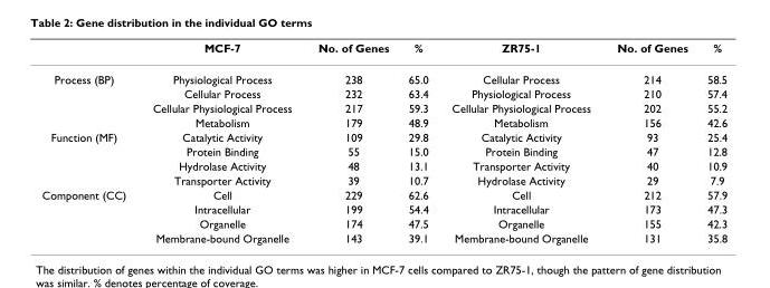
<table><thead><tr><td></td><td>MCF-7</td><td>No. of Genes</td><td>%</td><td>ZR75-1</td><td>No. of Genes</td><td>%</td></tr></thead><tbody><tr><td rowspan="4">Process (BP)</td><td>Physiological Process</td><td>238</td><td>65.0</td><td>Cellular Process</td><td>214</td><td>58.5</td></tr><tr><td>Cellular Process</td><td>232</td><td>63.4</td><td>Physiological Process</td><td>210</td><td>57.4</td></tr><tr><td>Cellular Physiological Process</td><td>217</td><td>59.3</td><td>Cellular Physiological Process</td><td>202</td><td>55.2</td></tr><tr><td>Metabolism</td><td>179</td><td>48.9</td><td>Metabolism</td><td>156</td><td>42.6</td></tr><tr><td rowspan="4">Function (MF)</td><td>Catalytic Activity</td><td>109</td><td>29.8</td><td>Catalytic Activity</td><td>93</td><td>25.4</td></tr><tr><td>Protein Binding</td><td>55</td><td>15.0</td><td>Protein Binding</td><td>47</td><td>12.8</td></tr><tr><td>Hydrolase Activity</td><td>48</td><td>13.1</td><td>Transporter Activity</td><td>40</td><td>10.9</td></tr><tr><td>Transporter Activity</td><td>39</td><td>10.7</td><td>Hydrolase Activity</td><td>29</td><td>7.9</td></tr><tr><td rowspan="4">Component (CC)</td><td>Cell</td><td>229</td><td>62.6</td><td>Cell</td><td>212</td><td>57.9</td></tr><tr><td>Intracellular</td><td>199</td><td>54.4</td><td>Intracellular</td><td>173</td><td>47.3</td></tr><tr><td>Organelle</td><td>174</td><td>47.5</td><td>Organelle</td><td>155</td><td>42.3</td></tr><tr><td>Membrane-bound Organelle</td><td>143</td><td>39.1</td><td>Membrane-bound Organelle</td><td>131</td><td>35.8</td></tr></tbody></table>